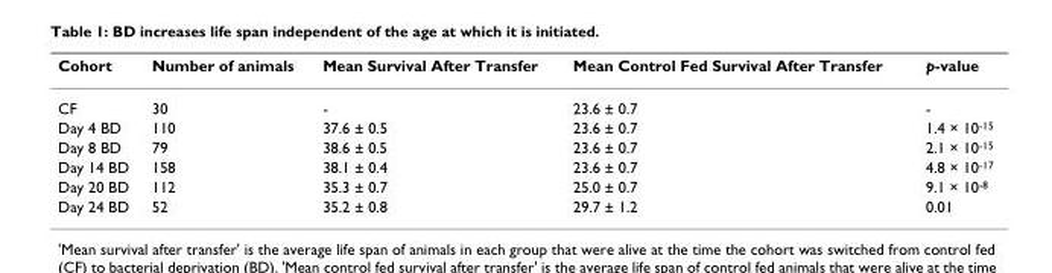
<table><thead><tr><td>Cohort</td><td>Number of animals</td><td>Mean Survival After Transfer</td><td>Mean Control Fed Survival After Transfer</td><td>p-value</td></tr></thead><tbody><tr><td>CF</td><td>30</td><td>-</td><td>23.6 ± 0.7</td><td>-</td></tr><tr><td>Day 4 BD</td><td>110</td><td>37.6 ± 0.5</td><td>23.6 ± 0.7</td><td>1.4 × 10<sup>-15</sup></td></tr><tr><td>Day 8 BD</td><td>79</td><td>38.6 ± 0.5</td><td>23.6 ± 0.7</td><td>2.1 × 10<sup>-15</sup></td></tr><tr><td>Day 14 BD</td><td>158</td><td>38.1 ± 0.4</td><td>23.6 ± 0.7</td><td>4.8 × 10<sup>-17</sup></td></tr><tr><td>Day 20 BD</td><td>112</td><td>35.3 ± 0.7</td><td>25.0 ± 0.7</td><td>9.1 × 10<sup>-8</sup></td></tr><tr><td>Day 24 BD</td><td>52</td><td>35.2 ± 0.8</td><td>29.7 ± 1.2</td><td>0.01</td></tr></tbody></table>